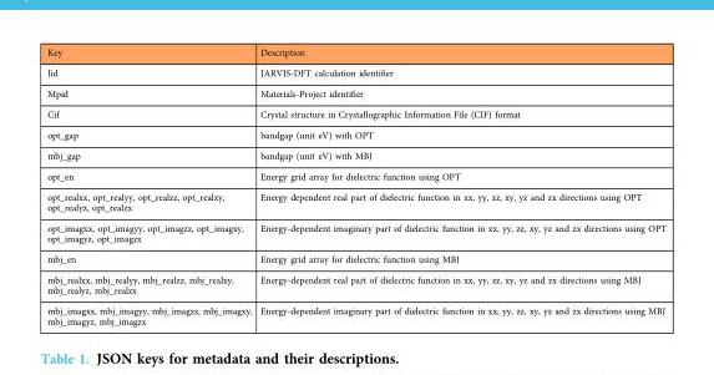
<table><thead><tr><td>Key</td><td>Description</td></tr></thead><tbody><tr><td>Jid</td><td>JARVIS-DFT calculation identifier</td></tr><tr><td>Mpid</td><td>Materials-Project identifier</td></tr><tr><td>Cif</td><td>Crystal structure in Crystallographic Information File (CIF) format</td></tr><tr><td>opt_gap</td><td>bandgap (unit eV) with OPT</td></tr><tr><td>mbj_gap</td><td>bandgap (unit eV) with MBJ</td></tr><tr><td>opt_en</td><td>Energy grid array for dielectric function using OPT</td></tr><tr><td>opt_realxx, opt_realyy, opt_realzz, opt_realxy, opt_realyz, opt_realzx</td><td>Energy dependent real part of dielectric function in xx, yy, zz, xy, yz and zx directions using OPT</td></tr><tr><td>opt_imagxx, opt_imagyy, opt_imagzz, opt_imagxy, opt_imagyz, opt_imagzx</td><td>Energy-dependent imaginary part of dielectric function in xx, yy, zz, xy, yz and zx directions using OPT</td></tr><tr><td>mbj_en</td><td>Energy grid array for dielectric function using MBJ</td></tr><tr><td>mbj_realxx, mbj_realyy, mbj_realzz, mbj_realxy, mbj_realyz, mbj_realzx</td><td>Energy-dependent real part of dielectric function in xx, yy, zz, xy, yz and zx directions using MBJ</td></tr><tr><td>mbj_imagxx, mbj_imagyy, mbj_imagzz, mbj_imagxy, mbj_imagyz, mbj_imagzx</td><td>Energy-dependent imaginary part of dielectric function in xx, yy, zz, xy, yz and zx directions using MBJ</td></tr></tbody></table>